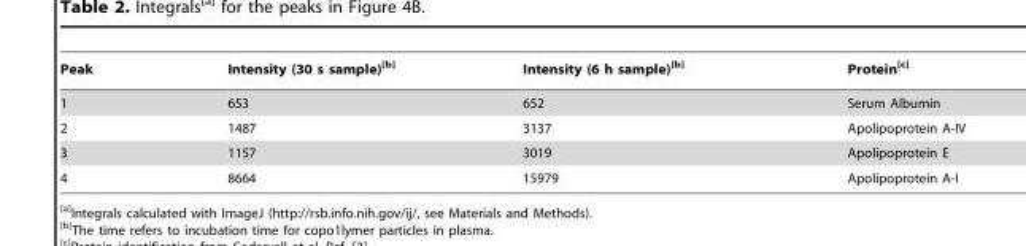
<table><thead><tr><td>Peak</td><td>Intensity (30 s sample)[b]</td><td>Intensity (6 h sample)[b]</td><td>Protein[c]</td></tr></thead><tbody><tr><td>1</td><td>653</td><td>652</td><td>Serum Albumin</td></tr><tr><td>2</td><td>1487</td><td>3137</td><td>Apolipoprotein A-IV</td></tr><tr><td>3</td><td>1157</td><td>3019</td><td>Apolipoprotein E</td></tr><tr><td>4</td><td>8664</td><td>15979</td><td>Apolipoprotein A-I</td></tr></tbody></table>